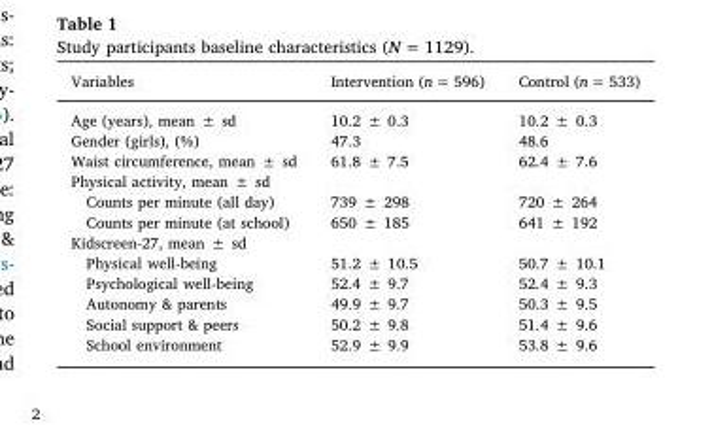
<table><thead><tr><td>Variables</td><td>Intervention (n = 596)</td><td>Control (n = 533)</td></tr></thead><tbody><tr><td>Age (years), mean ± sd</td><td>10.2 ± 0.3</td><td>10.2 ± 0.3</td></tr><tr><td>Gender (girls), (%)</td><td>47.3</td><td>48.6</td></tr><tr><td>Waist circumference, mean ± sd</td><td>61.8 ± 7.5</td><td>62.4 ± 7.6</td></tr><tr><td colspan="3">Physical activity, mean ± sd</td></tr><tr><td>Counts per minute (all day)</td><td>739 ± 298</td><td>720 ± 264</td></tr><tr><td>Counts per minute (at school)</td><td>650 ± 185</td><td>641 ± 192</td></tr><tr><td colspan="3">Kidscreen-27, mean ± sd</td></tr><tr><td>Physical well-being</td><td>51.2 ± 10.5</td><td>50.7 ± 10.1</td></tr><tr><td>Psychological well-being</td><td>52.4 ± 9.7</td><td>52.4 ± 9.3</td></tr><tr><td>Autonomy &amp; parents</td><td>49.9 ± 9.7</td><td>50.3 ± 9.5</td></tr><tr><td>Social support &amp; peers</td><td>50.2 ± 9.8</td><td>51.4 ± 9.6</td></tr><tr><td>School environment</td><td>52.9 ± 9.9</td><td>53.8 ± 9.6</td></tr></tbody></table>